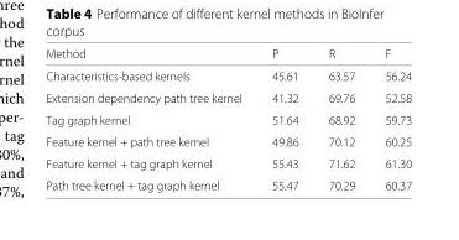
<table><thead><tr><td>Method</td><td>P</td><td>R</td><td>F</td></tr></thead><tbody><tr><td>Characteristics-based kernels</td><td>45.61</td><td>63.57</td><td>56.24</td></tr><tr><td>Extension dependency path tree kernel</td><td>41.32</td><td>69.76</td><td>52.58</td></tr><tr><td>Tag graph kernel</td><td>51.64</td><td>68.92</td><td>59.73</td></tr><tr><td>Feature kernel + path tree kernel</td><td>49.86</td><td>70.12</td><td>60.25</td></tr><tr><td>Feature kernel + tag graph kernel</td><td>55.43</td><td>71.62</td><td>61.30</td></tr><tr><td>Path tree kernel + tag graph kernel</td><td>55.47</td><td>70.29</td><td>60.37</td></tr></tbody></table>